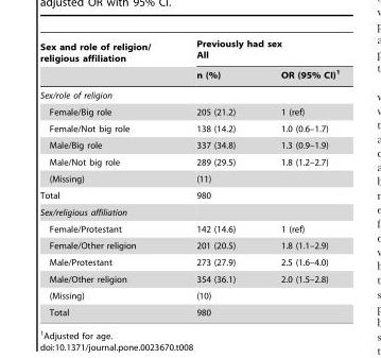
<table><thead><tr><td rowspan="2">Sex and role of religion/ religious affiliation</td><td colspan="2">Previously had sex All</td></tr><tr><td>n (%)</td><td>OR (95% CI)<sup>1</sup></td></tr></thead><tbody><tr><td colspan="3">Sex/role of religion</td></tr><tr><td>Female/Big role</td><td>205 (21.2)</td><td>1 (ref)</td></tr><tr><td>Female/Not big role</td><td>138 (14.2)</td><td>1.0 (0.6–1.7)</td></tr><tr><td>Male/Big role</td><td>337 (34.8)</td><td>1.3 (0.9–1.9)</td></tr><tr><td>Male/Not big role</td><td>289 (29.5)</td><td>1.8 (1.2–2.7)</td></tr><tr><td>(Missing)</td><td>(11)</td><td></td></tr><tr><td>Total</td><td>980</td><td></td></tr><tr><td colspan="3">Sex/religious affiliation</td></tr><tr><td>Female/Protestant</td><td>142 (14.6)</td><td>1 (ref)</td></tr><tr><td>Female/Other religion</td><td>201 (20.5)</td><td>1.8 (1.1–2.9)</td></tr><tr><td>Male/Protestant</td><td>273 (27.9)</td><td>2.5 (1.6–4.0)</td></tr><tr><td>Male/Other religion</td><td>354 (36.1)</td><td>2.0 (1.5–2.8)</td></tr><tr><td>(Missing)</td><td>(10)</td><td></td></tr><tr><td>Total</td><td>980</td><td></td></tr></tbody></table>